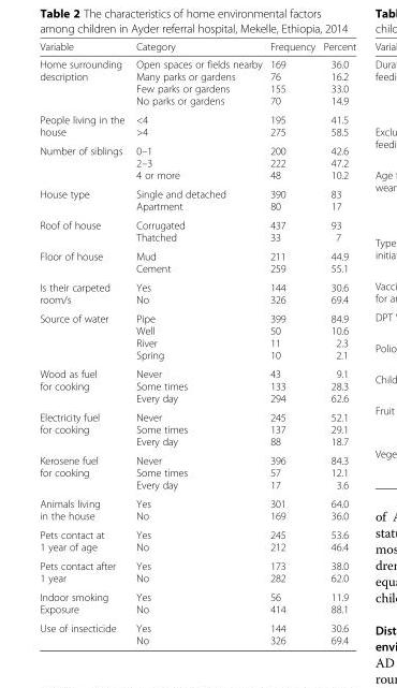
<table><thead><tr><td>Variable</td><td>Category</td><td>Frequency</td><td>Percent</td></tr></thead><tbody><tr><td>Home surrounding description</td><td>Open spaces or fields nearby Many parks or gardens Few parks or gardens No parks or gardens</td><td>169 76 155 70</td><td>36.0 16.2 33.0 14.9</td></tr><tr><td>People living in the house</td><td>&lt;4 &gt;4</td><td>195 275</td><td>41.5 58.5</td></tr><tr><td>Number of siblings</td><td>0–1 2–3 4 or more</td><td>200 222 48</td><td>42.6 47.2 10.2</td></tr><tr><td>House type</td><td>Single and detached Apartment</td><td>390 80</td><td>83 17</td></tr><tr><td>Roof of house</td><td>Corrugated Thatched</td><td>437 33</td><td>93 7</td></tr><tr><td>Floor of house</td><td>Mud Cement</td><td>211 259</td><td>44.9 55.1</td></tr><tr><td>Is their carpeted room/s</td><td>Yes No</td><td>144 326</td><td>30.6 69.4</td></tr><tr><td>Source of water</td><td>Pipe Well River Spring</td><td>399 50 11 10</td><td>84.9 10.6 2.3 2.1</td></tr><tr><td>Wood as fuel for cooking</td><td>Never Some times Every day</td><td>43 133 294</td><td>9.1 28.3 62.6</td></tr><tr><td>Electricity fuel for cooking</td><td>Never Some times Every day</td><td>245 137 88</td><td>52.1 29.1 18.7</td></tr><tr><td>Kerosene fuel for cooking</td><td>Never Some times Every day</td><td>396 57 17</td><td>84.3 12.1 3.6</td></tr><tr><td>Animals living in the house</td><td>Yes No</td><td>301 169</td><td>64.0 36.0</td></tr><tr><td>Pets contact at 1 year of age</td><td>Yes No</td><td>245 212</td><td>53.6 46.4</td></tr><tr><td>Pets contact after 1 year</td><td>Yes No</td><td>173 282</td><td>38.0 62.0</td></tr><tr><td>Indoor smoking Exposure</td><td>Yes No</td><td>56 414</td><td>11.9 88.1</td></tr><tr><td>Use of insecticide</td><td>Yes No</td><td>144 326</td><td>30.6 69.4</td></tr></tbody></table>